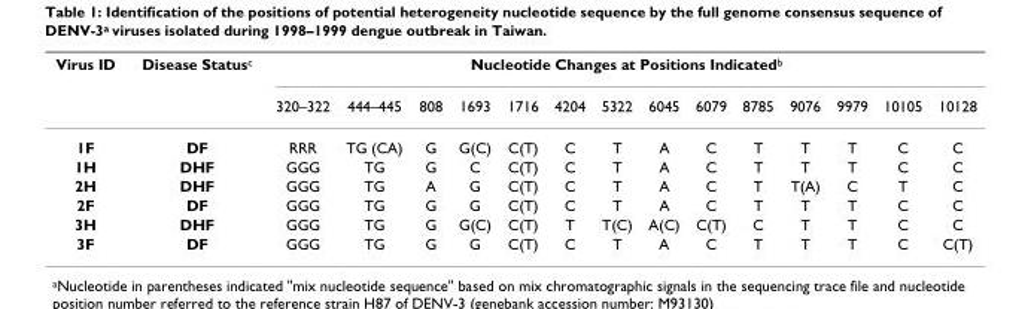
<table><thead><tr><td rowspan="2">Virus ID</td><td rowspan="2">Disease Status<sup>c</sup></td><td colspan="14">Nucleotide Changes at Positions Indicated<sup>b</sup></td></tr><tr><td>320–322</td><td>444–445</td><td>808</td><td>1693</td><td>1716</td><td>4204</td><td>5322</td><td>6045</td><td>6079</td><td>8785</td><td>9076</td><td>9979</td><td>10105</td><td>10128</td></tr></thead><tbody><tr><td>1F</td><td>DF</td><td>RRR</td><td>TG (CA)</td><td>G</td><td>G(C)</td><td>C(T)</td><td>C</td><td>T</td><td>A</td><td>C</td><td>T</td><td>T</td><td>T</td><td>C</td><td>C</td></tr><tr><td>1H</td><td>DHF</td><td>GGG</td><td>TG</td><td>G</td><td>C</td><td>C(T)</td><td>C</td><td>T</td><td>A</td><td>C</td><td>T</td><td>T</td><td>T</td><td>C</td><td>C</td></tr><tr><td>2H</td><td>DHF</td><td>GGG</td><td>TG</td><td>A</td><td>G</td><td>C(T)</td><td>C</td><td>T</td><td>A</td><td>C</td><td>T</td><td>T(A)</td><td>C</td><td>T</td><td>C</td></tr><tr><td>2F</td><td>DF</td><td>GGG</td><td>TG</td><td>G</td><td>G</td><td>C(T)</td><td>C</td><td>T</td><td>A</td><td>C</td><td>T</td><td>T</td><td>T</td><td>C</td><td>C</td></tr><tr><td>3H</td><td>DHF</td><td>GGG</td><td>TG</td><td>G</td><td>G(C)</td><td>C(T)</td><td>T</td><td>T(C)</td><td>A(C)</td><td>C(T)</td><td>C</td><td>T</td><td>T</td><td>C</td><td>C</td></tr><tr><td>3F</td><td>DF</td><td>GGG</td><td>TG</td><td>G</td><td>G</td><td>C(T)</td><td>C</td><td>T</td><td>A</td><td>C</td><td>T</td><td>T</td><td>T</td><td>C</td><td>C(T)</td></tr></tbody></table>